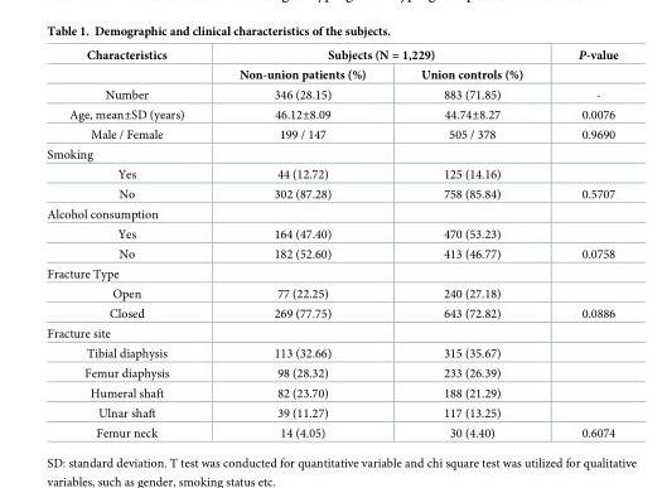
<table><thead><tr><td rowspan="2">Characteristics</td><td colspan="2">Subjects (N = 1,229)</td><td rowspan="2">P-value</td></tr><tr><td>Non-union patients (%)</td><td>Union controls (%)</td></tr></thead><tbody><tr><td>Number</td><td>346 (28.15)</td><td>883 (71.85)</td><td>-</td></tr><tr><td>Age, mean±SD (years)</td><td>46.12±8.09</td><td>44.74±8.27</td><td>0.0076</td></tr><tr><td>Male / Female</td><td>199 / 147</td><td>505 / 378</td><td>0.9690</td></tr><tr><td colspan="4">Smoking</td></tr><tr><td>Yes</td><td>44 (12.72)</td><td>125 (14.16)</td><td></td></tr><tr><td>No</td><td>302 (87.28)</td><td>758 (85.84)</td><td>0.5707</td></tr><tr><td colspan="4">Alcohol consumption</td></tr><tr><td>Yes</td><td>164 (47.40)</td><td>470 (53.23)</td><td></td></tr><tr><td>No</td><td>182 (52.60)</td><td>413 (46.77)</td><td>0.0758</td></tr><tr><td colspan="4">Fracture Type</td></tr><tr><td>Open</td><td>77 (22.25)</td><td>240 (27.18)</td><td></td></tr><tr><td>Closed</td><td>269 (77.75)</td><td>643 (72.82)</td><td>0.0886</td></tr><tr><td colspan="4">Fracture site</td></tr><tr><td>Tibial diaphysis</td><td>113 (32.66)</td><td>315 (35.67)</td><td></td></tr><tr><td>Femur diaphysis</td><td>98 (28.32)</td><td>233 (26.39)</td><td></td></tr><tr><td>Humeral shaft</td><td>82 (23.70)</td><td>188 (21.29)</td><td></td></tr><tr><td>Ulnar shaft</td><td>39 (11.27)</td><td>117 (13.25)</td><td></td></tr><tr><td>Femur neck</td><td>14 (4.05)</td><td>30 (4.40)</td><td>0.6074</td></tr></tbody></table>